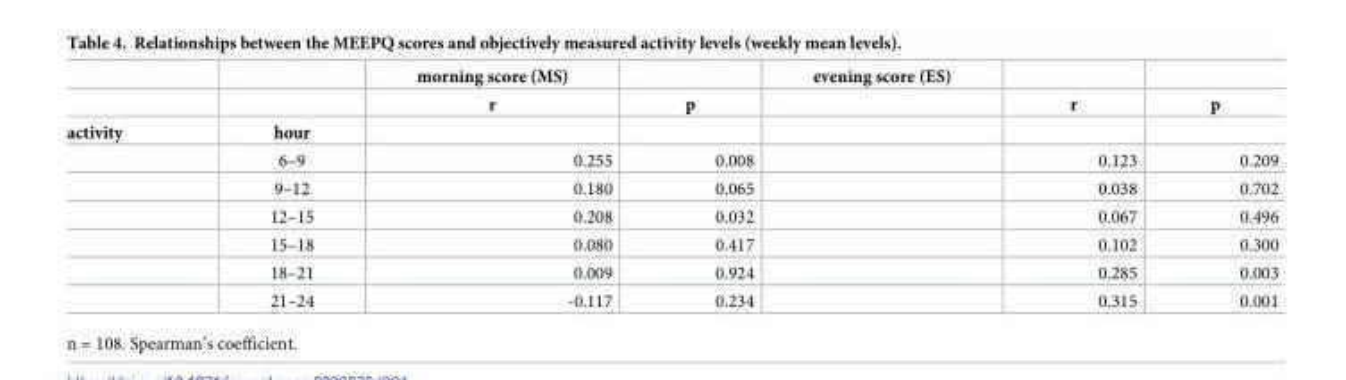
<table><thead><tr><td rowspan="3">activity</td><td rowspan="3">hour</td><td rowspan="3">morning score (MS) r</td><td rowspan="3">p</td><td rowspan="3">evening score (ES)</td><td rowspan="3">r</td><td rowspan="3">p</td></tr><tr></tr><tr></tr></thead><tbody><tr><td></td><td>6–9</td><td>0.255</td><td>0.008</td><td></td><td>0.123</td><td>0.209</td></tr><tr><td></td><td>9–12</td><td>0.180</td><td>0.065</td><td></td><td>0.038</td><td>0.702</td></tr><tr><td></td><td>12–15</td><td>0.208</td><td>0.032</td><td></td><td>0.067</td><td>0.496</td></tr><tr><td></td><td>15–18</td><td>0.080</td><td>0.417</td><td></td><td>0.102</td><td>0.300</td></tr><tr><td></td><td>18–21</td><td>0.009</td><td>0.924</td><td></td><td>0.285</td><td>0.003</td></tr><tr><td></td><td>21–24</td><td>-0.117</td><td>0.234</td><td></td><td>0.315</td><td>0.001</td></tr></tbody></table>